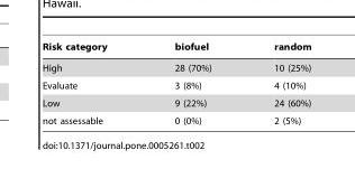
<table><thead><tr><td>Risk category</td><td>biofuel</td><td>random</td></tr></thead><tbody><tr><td>High</td><td>28 (70%)</td><td>10 (25%)</td></tr><tr><td>Evaluate</td><td>3 (8%)</td><td>4 (10%)</td></tr><tr><td>Low</td><td>9 (22%)</td><td>24 (60%)</td></tr><tr><td>not assessable</td><td>0 (0%)</td><td>2 (5%)</td></tr></tbody></table>